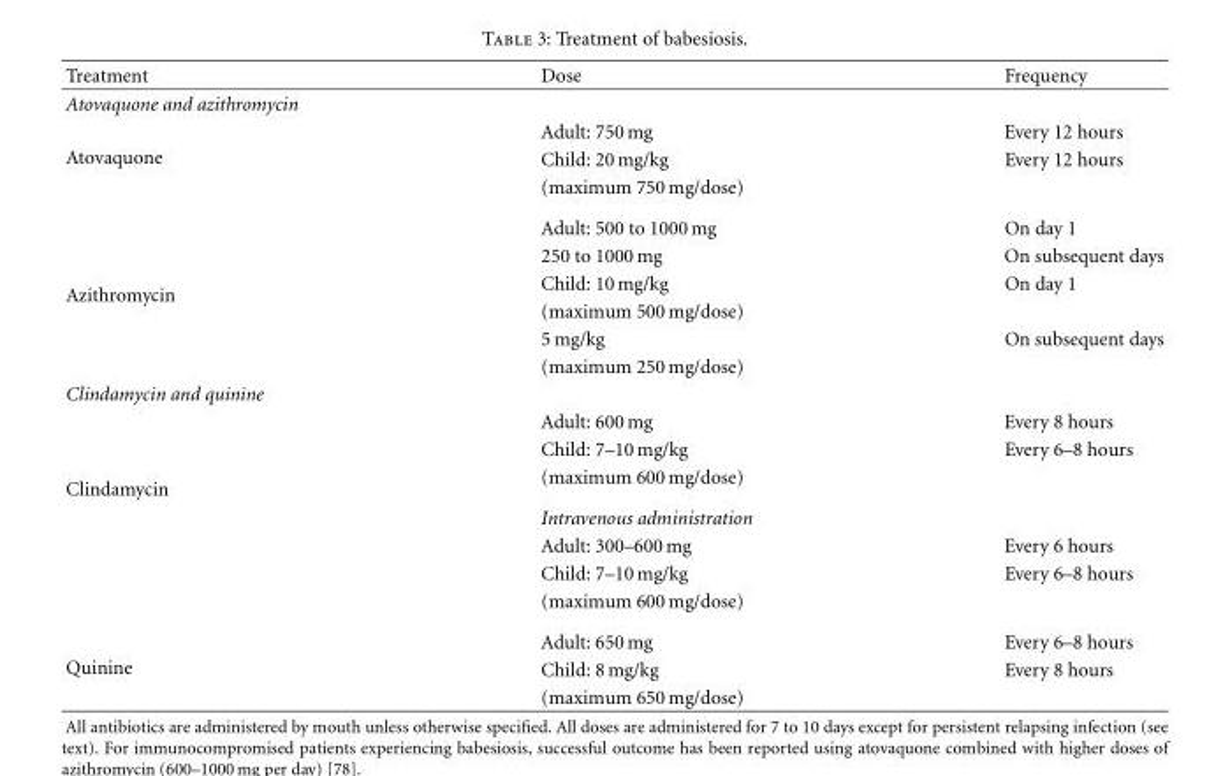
<table><thead><tr><td>Treatment</td><td>Dose</td><td>Frequency</td></tr></thead><tbody><tr><td colspan="3">Atovaquone and azithromycin</td></tr><tr><td rowspan="3">Atovaquone</td><td>Adult: 750 mg</td><td>Every 12 hours</td></tr><tr><td>Child: 20 mg/kg</td><td>Every 12 hours</td></tr><tr><td>(maximum 750 mg/dose)</td><td></td></tr><tr><td rowspan="6">Azithromycin</td><td>Adult: 500 to 1000 mg</td><td>On day 1</td></tr><tr><td>250 to 1000 mg</td><td>On subsequent days</td></tr><tr><td>Child: 10 mg/kg</td><td>On day 1</td></tr><tr><td>(maximum 500 mg/dose)</td><td></td></tr><tr><td>5 mg/kg</td><td>On subsequent days</td></tr><tr><td>(maximum 250 mg/dose)</td><td></td></tr><tr><td colspan="3">Clindamycin and quinine</td></tr><tr><td rowspan="7">Clindamycin</td><td>Adult: 600 mg</td><td>Every 8 hours</td></tr><tr><td>Child: 7–10 mg/kg</td><td>Every 6–8 hours</td></tr><tr><td>(maximum 600 mg/dose)</td><td></td></tr><tr><td>Intravenous administration</td><td></td></tr><tr><td>Adult: 300–600 mg</td><td>Every 6 hours</td></tr><tr><td>Child: 7–10 mg/kg</td><td>Every 6–8 hours</td></tr><tr><td>(maximum 600 mg/dose)</td><td></td></tr><tr><td rowspan="3">Quinine</td><td>Adult: 650 mg</td><td>Every 6–8 hours</td></tr><tr><td>Child: 8 mg/kg</td><td>Every 8 hours</td></tr><tr><td>(maximum 650 mg/dose)</td><td></td></tr></tbody></table>